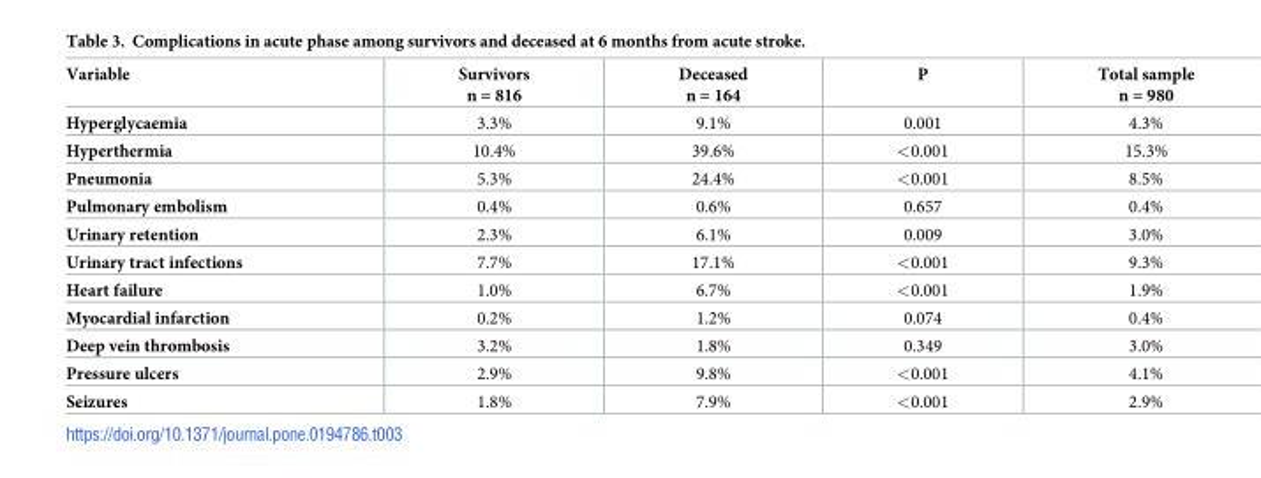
<table><thead><tr><td>Variable</td><td>Survivors n = 816</td><td>Deceased n = 164</td><td>P</td><td>Total sample n = 980</td></tr></thead><tbody><tr><td>Hyperglycaemia</td><td>3.3%</td><td>9.1%</td><td>0.001</td><td>4.3%</td></tr><tr><td>Hyperthermia</td><td>10.4%</td><td>39.6%</td><td>&lt;0.001</td><td>15.3%</td></tr><tr><td>Pneumonia</td><td>5.3%</td><td>24.4%</td><td>&lt;0.001</td><td>8.5%</td></tr><tr><td>Pulmonary embolism</td><td>0.4%</td><td>0.6%</td><td>0.657</td><td>0.4%</td></tr><tr><td>Urinary retention</td><td>2.3%</td><td>6.1%</td><td>0.009</td><td>3.0%</td></tr><tr><td>Urinary tract infections</td><td>7.7%</td><td>17.1%</td><td>&lt;0.001</td><td>9.3%</td></tr><tr><td>Heart failure</td><td>1.0%</td><td>6.7%</td><td>&lt;0.001</td><td>1.9%</td></tr><tr><td>Myocardial infarction</td><td>0.2%</td><td>1.2%</td><td>0.074</td><td>0.4%</td></tr><tr><td>Deep vein thrombosis</td><td>3.2%</td><td>1.8%</td><td>0.349</td><td>3.0%</td></tr><tr><td>Pressure ulcers</td><td>2.9%</td><td>9.8%</td><td>&lt;0.001</td><td>4.1%</td></tr><tr><td>Seizures</td><td>1.8%</td><td>7.9%</td><td>&lt;0.001</td><td>2.9%</td></tr></tbody></table>